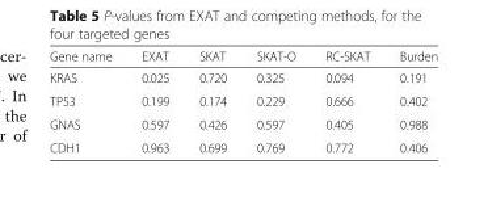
<table><thead><tr><td>Gene name</td><td>EXAT</td><td>SKAT</td><td>SKAT-O</td><td>RC-SKAT</td><td>Burden</td></tr></thead><tbody><tr><td>KRAS</td><td>0.025</td><td>0.720</td><td>0.325</td><td>0.094</td><td>0.191</td></tr><tr><td>TP53</td><td>0.199</td><td>0.174</td><td>0.229</td><td>0.666</td><td>0.402</td></tr><tr><td>GNAS</td><td>0.597</td><td>0.426</td><td>0.597</td><td>0.405</td><td>0.988</td></tr><tr><td>CDH1</td><td>0.963</td><td>0.699</td><td>0.769</td><td>0.772</td><td>0.406</td></tr></tbody></table>